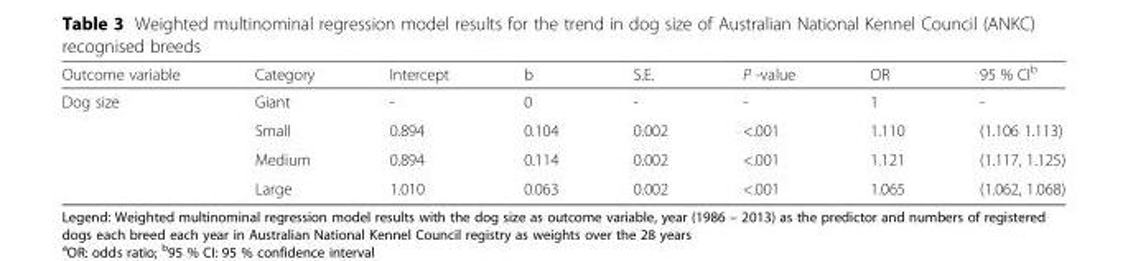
<table><thead><tr><td>Outcome variable</td><td>Category</td><td>Intercept</td><td>b</td><td>S.E.</td><td>P -value</td><td>OR</td><td>95 % CI<sup>b</sup></td></tr></thead><tbody><tr><td rowspan="4">Dog size</td><td>Giant</td><td>-</td><td>0</td><td>-</td><td>-</td><td>1</td><td>-</td></tr><tr><td>Small</td><td>0.894</td><td>0.104</td><td>0.002</td><td>&lt;.001</td><td>1.110</td><td>(1.106 1.113)</td></tr><tr><td>Medium</td><td>0.894</td><td>0.114</td><td>0.002</td><td>&lt;.001</td><td>1.121</td><td>(1.117, 1.125)</td></tr><tr><td>Large</td><td>1.010</td><td>0.063</td><td>0.002</td><td>&lt;.001</td><td>1.065</td><td>(1.062, 1.068)</td></tr></tbody></table>